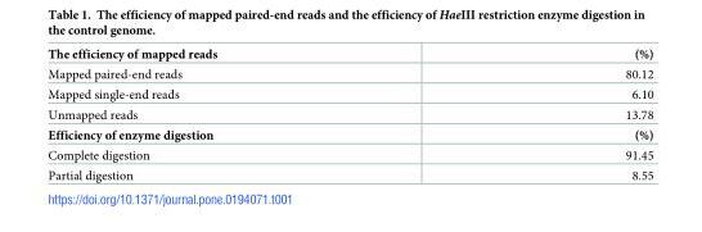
<table><tbody><tr><td>The efficiency of mapped reads</td><td>(%)</td></tr><tr><td>Mapped paired-end reads</td><td>80.12</td></tr><tr><td>Mapped single-end reads</td><td>6.10</td></tr><tr><td>Unmapped reads</td><td>13.78</td></tr><tr><td>Efficiency of enzyme digestion</td><td>(%)</td></tr><tr><td>Complete digestion</td><td>91.45</td></tr><tr><td>Partial digestion</td><td>8.55</td></tr></tbody></table>